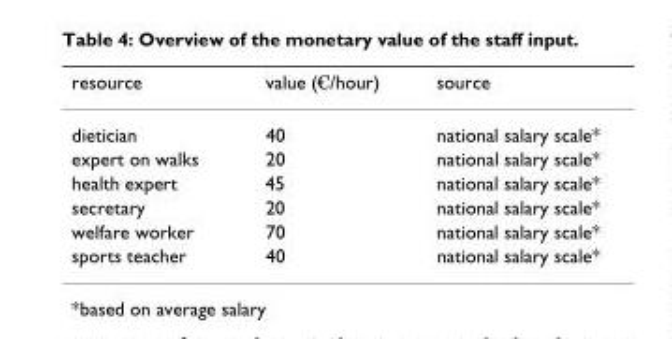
<table><thead><tr><td>resource</td><td>value (€/hour)</td><td>source</td></tr></thead><tbody><tr><td>dietician</td><td>40</td><td>national salary scale*</td></tr><tr><td>expert on walks</td><td>20</td><td>national salary scale*</td></tr><tr><td>health expert</td><td>45</td><td>national salary scale*</td></tr><tr><td>secretary</td><td>20</td><td>national salary scale*</td></tr><tr><td>welfare worker</td><td>70</td><td>national salary scale*</td></tr><tr><td>sports teacher</td><td>40</td><td>national salary scale*</td></tr></tbody></table>